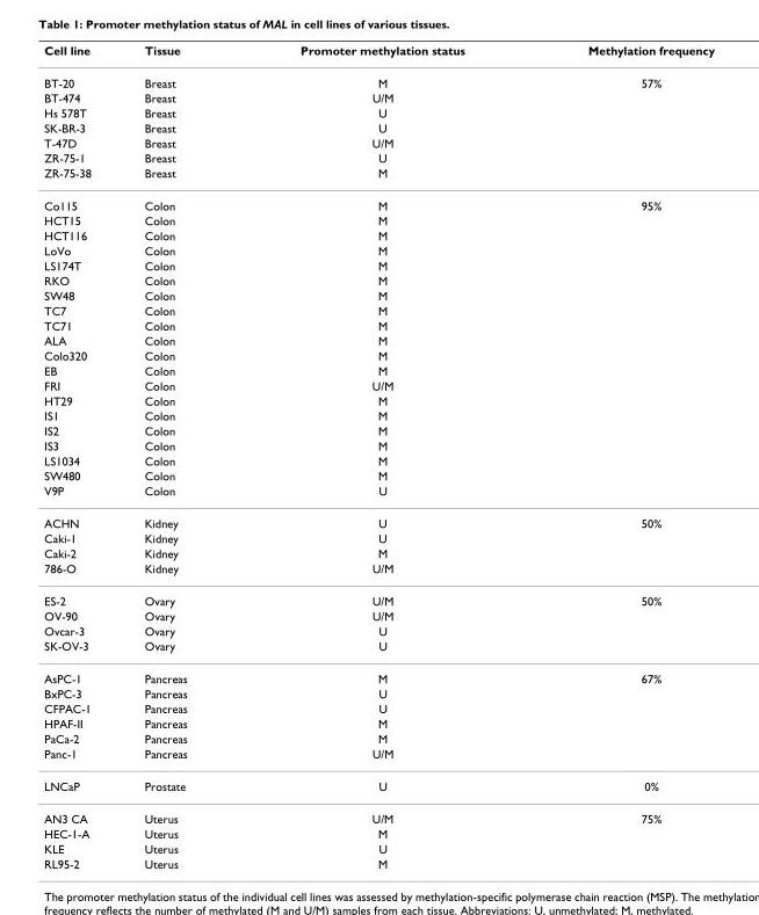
<table><thead><tr><td>Cell line</td><td>Tissue</td><td>Promoter methylation status</td><td>Methylation frequency</td></tr></thead><tbody><tr><td>BT-20</td><td>Breast</td><td>M</td><td>57%</td></tr><tr><td>BT-474</td><td>Breast</td><td>U/M</td><td></td></tr><tr><td>Hs 578T</td><td>Breast</td><td>U</td><td></td></tr><tr><td>SK-BR-3</td><td>Breast</td><td>U</td><td></td></tr><tr><td>T-47D</td><td>Breast</td><td>U/M</td><td></td></tr><tr><td>ZR-75-1</td><td>Breast</td><td>U</td><td></td></tr><tr><td>ZR-75-38</td><td>Breast</td><td>M</td><td></td></tr><tr><td>Co115</td><td>Colon</td><td>M</td><td>95%</td></tr><tr><td>HCT15</td><td>Colon</td><td>M</td><td></td></tr><tr><td>HCT116</td><td>Colon</td><td>M</td><td></td></tr><tr><td>LoVo</td><td>Colon</td><td>M</td><td></td></tr><tr><td>LS174T</td><td>Colon</td><td>M</td><td></td></tr><tr><td>RKO</td><td>Colon</td><td>M</td><td></td></tr><tr><td>SW48</td><td>Colon</td><td>M</td><td></td></tr><tr><td>TC7</td><td>Colon</td><td>M</td><td></td></tr><tr><td>TC71</td><td>Colon</td><td>M</td><td></td></tr><tr><td>ALA</td><td>Colon</td><td>M</td><td></td></tr><tr><td>Colo320</td><td>Colon</td><td>M</td><td></td></tr><tr><td>EB</td><td>Colon</td><td>M</td><td></td></tr><tr><td>FRI</td><td>Colon</td><td>U/M</td><td></td></tr><tr><td>HT29</td><td>Colon</td><td>M</td><td></td></tr><tr><td>IS1</td><td>Colon</td><td>M</td><td></td></tr><tr><td>IS2</td><td>Colon</td><td>M</td><td></td></tr><tr><td>IS3</td><td>Colon</td><td>M</td><td></td></tr><tr><td>LS1034</td><td>Colon</td><td>M</td><td></td></tr><tr><td>SW480</td><td>Colon</td><td>M</td><td></td></tr><tr><td>V9P</td><td>Colon</td><td>U</td><td></td></tr><tr><td>ACHN</td><td>Kidney</td><td>U</td><td>50%</td></tr><tr><td>Caki-1</td><td>Kidney</td><td>U</td><td></td></tr><tr><td>Caki-2</td><td>Kidney</td><td>M</td><td></td></tr><tr><td>786-O</td><td>Kidney</td><td>U/M</td><td></td></tr><tr><td>ES-2</td><td>Ovary</td><td>U/M</td><td>50%</td></tr><tr><td>OV-90</td><td>Ovary</td><td>U/M</td><td></td></tr><tr><td>Ovcar-3</td><td>Ovary</td><td>U</td><td></td></tr><tr><td>SK-OV-3</td><td>Ovary</td><td>U</td><td></td></tr><tr><td>AsPC-1</td><td>Pancreas</td><td>M</td><td>67%</td></tr><tr><td>BxPC-3</td><td>Pancreas</td><td>U</td><td></td></tr><tr><td>CFPAC-1</td><td>Pancreas</td><td>U</td><td></td></tr><tr><td>HPAF-II</td><td>Pancreas</td><td>M</td><td></td></tr><tr><td>PaCa-2</td><td>Pancreas</td><td>M</td><td></td></tr><tr><td>Panc-1</td><td>Pancreas</td><td>U/M</td><td></td></tr><tr><td>LNCaP</td><td>Prostate</td><td>U</td><td>0%</td></tr><tr><td>AN3 CA</td><td>Uterus</td><td>U/M</td><td>75%</td></tr><tr><td>HEC-1-A</td><td>Uterus</td><td>M</td><td></td></tr><tr><td>KLE</td><td>Uterus</td><td>U</td><td></td></tr><tr><td>RL95-2</td><td>Uterus</td><td>M</td><td></td></tr></tbody></table>